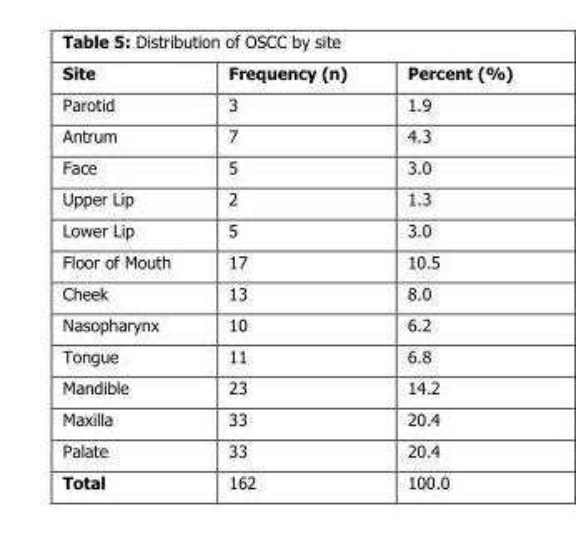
<table><thead><tr><td>Site</td><td>Frequency (n)</td><td>Percent (%)</td></tr></thead><tbody><tr><td>Parotid</td><td>3</td><td>1.9</td></tr><tr><td>Antrum</td><td>7</td><td>4.3</td></tr><tr><td>Face</td><td>5</td><td>3.0</td></tr><tr><td>Upper Lip</td><td>2</td><td>1.3</td></tr><tr><td>Lower Lip</td><td>5</td><td>3.0</td></tr><tr><td>Floor of Mouth</td><td>17</td><td>10.5</td></tr><tr><td>Cheek</td><td>13</td><td>8.0</td></tr><tr><td>Nasopharynx</td><td>10</td><td>6.2</td></tr><tr><td>Tongue</td><td>11</td><td>6.8</td></tr><tr><td>Mandible</td><td>23</td><td>14.2</td></tr><tr><td>Maxilla</td><td>33</td><td>20.4</td></tr><tr><td>Palate</td><td>33</td><td>20.4</td></tr><tr><td>Total</td><td>162</td><td>100.0</td></tr></tbody></table>